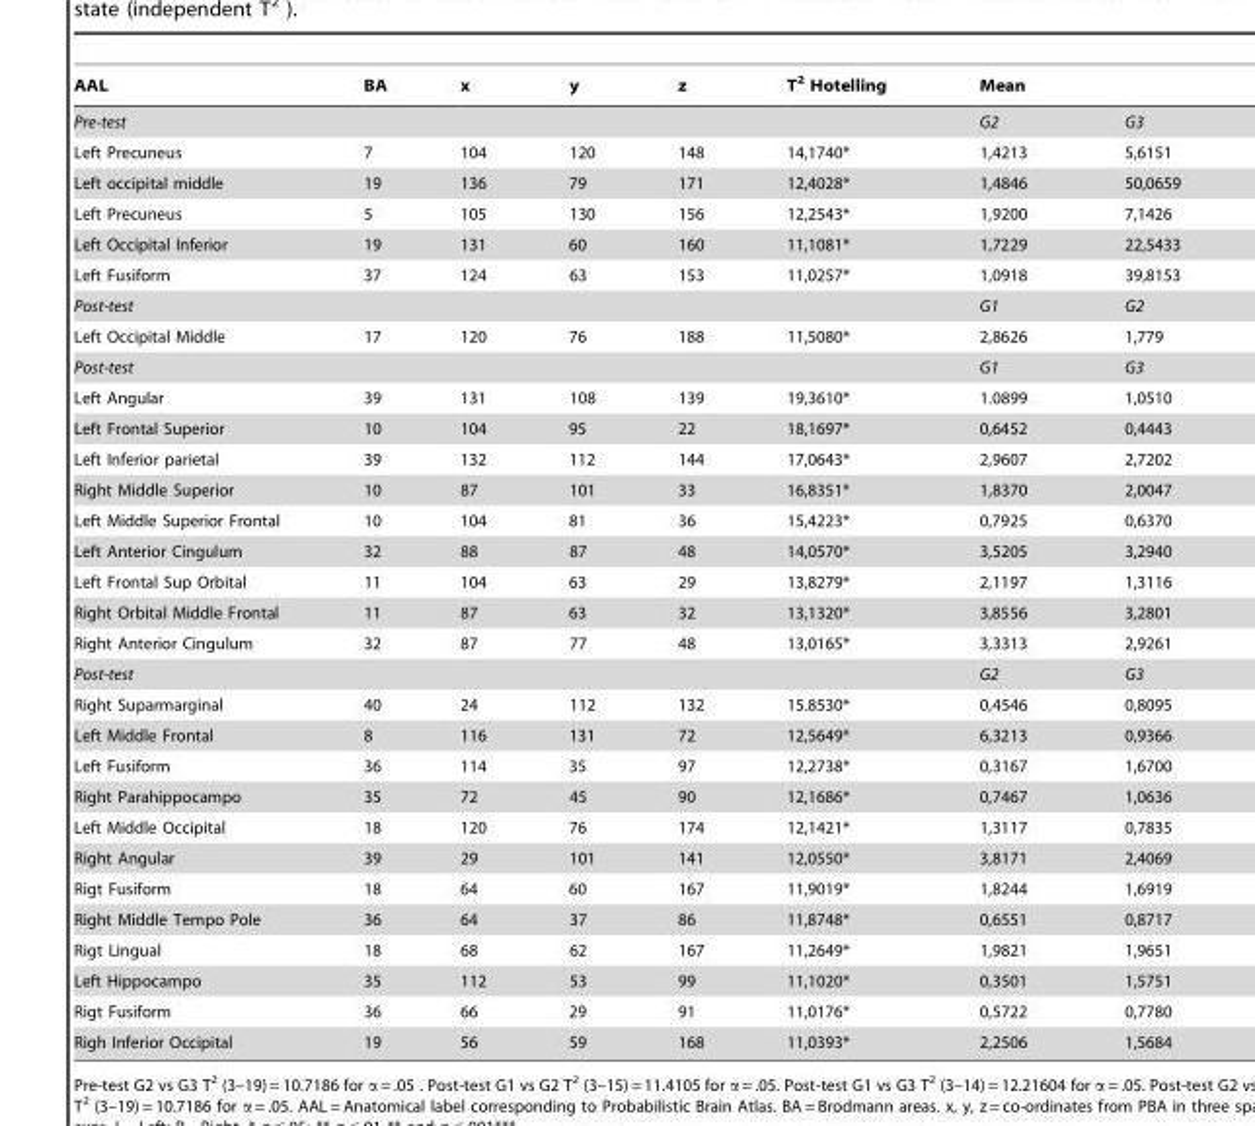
<table><thead><tr><td>AAL</td><td>BA</td><td>x</td><td>y</td><td>z</td><td>T<sup>2</sup> Hotelling</td><td>Mean</td><td></td></tr></thead><tbody><tr><td colspan="6">Pre-test</td><td>G2</td><td>G3</td></tr><tr><td>Left Precuneus</td><td>7</td><td>104</td><td>120</td><td>148</td><td>14,1740*</td><td>1,4213</td><td>5,6151</td></tr><tr><td>Left occipital middle</td><td>19</td><td>136</td><td>79</td><td>171</td><td>12,4028*</td><td>1,4846</td><td>50,0659</td></tr><tr><td>Left Precuneus</td><td>5</td><td>105</td><td>130</td><td>156</td><td>12,2543*</td><td>1,9200</td><td>7,1426</td></tr><tr><td>Left Occipital Inferior</td><td>19</td><td>131</td><td>60</td><td>160</td><td>11,1081*</td><td>1,7229</td><td>22,5433</td></tr><tr><td>Left Fusiform</td><td>37</td><td>124</td><td>63</td><td>153</td><td>11,0257*</td><td>1,0918</td><td>39,8153</td></tr><tr><td colspan="6">Post-test</td><td>G1</td><td>G2</td></tr><tr><td>Left Occipital Middle</td><td>17</td><td>120</td><td>76</td><td>188</td><td>11,5080*</td><td>2,8626</td><td>1,779</td></tr><tr><td colspan="6">Post-test</td><td>G1</td><td>G3</td></tr><tr><td>Left Angular</td><td>39</td><td>131</td><td>108</td><td>139</td><td>19,3610*</td><td>1.0899</td><td>1,0510</td></tr><tr><td>Left Frontal Superior</td><td>10</td><td>104</td><td>95</td><td>22</td><td>18,1697*</td><td>0,6452</td><td>0,4443</td></tr><tr><td>Left Inferior parietal</td><td>39</td><td>132</td><td>112</td><td>144</td><td>17,0643*</td><td>2,9607</td><td>2,7202</td></tr><tr><td>Right Middle Superior</td><td>10</td><td>87</td><td>101</td><td>33</td><td>16,8351*</td><td>1,8370</td><td>2,0047</td></tr><tr><td>Left Middle Superior Frontal</td><td>10</td><td>104</td><td>81</td><td>36</td><td>15,4223*</td><td>0,7925</td><td>0,6370</td></tr><tr><td>Left Anterior Cingulum</td><td>32</td><td>88</td><td>87</td><td>48</td><td>14,0570*</td><td>3,5205</td><td>3,2940</td></tr><tr><td>Left Frontal Sup Orbital</td><td>11</td><td>104</td><td>63</td><td>29</td><td>13,8279*</td><td>2,1197</td><td>1,3116</td></tr><tr><td>Right Orbital Middle Frontal</td><td>11</td><td>87</td><td>63</td><td>32</td><td>13,1320*</td><td>3,8556</td><td>3,2801</td></tr><tr><td>Right Anterior Cingulum</td><td>32</td><td>87</td><td>77</td><td>48</td><td>13,0165*</td><td>3,3313</td><td>2,9261</td></tr><tr><td colspan="6">Post-test</td><td>G2</td><td>G3</td></tr><tr><td>Right Suparmarginal</td><td>40</td><td>24</td><td>112</td><td>132</td><td>15.8530*</td><td>0,4546</td><td>0,8095</td></tr><tr><td>Left Middle Frontal</td><td>8</td><td>116</td><td>131</td><td>72</td><td>12,5649*</td><td>6,3213</td><td>0,9366</td></tr><tr><td>Left Fusiform</td><td>36</td><td>114</td><td>35</td><td>97</td><td>12,2738*</td><td>0,3167</td><td>1,6700</td></tr><tr><td>Right Parahippocampo</td><td>35</td><td>72</td><td>45</td><td>90</td><td>12,1686*</td><td>0,7467</td><td>1,0636</td></tr><tr><td>Left Middle Occipital</td><td>18</td><td>120</td><td>76</td><td>174</td><td>12,1421*</td><td>1,3117</td><td>0,7835</td></tr><tr><td>Right Angular</td><td>39</td><td>29</td><td>101</td><td>141</td><td>12,0550*</td><td>3,8171</td><td>2,4069</td></tr><tr><td>Rigt Fusiform</td><td>18</td><td>64</td><td>60</td><td>167</td><td>11,9019*</td><td>1,8244</td><td>1,6919</td></tr><tr><td>Right Middle Tempo Pole</td><td>36</td><td>64</td><td>37</td><td>86</td><td>11,8748*</td><td>0,6551</td><td>0,8717</td></tr><tr><td>Rigt Lingual</td><td>18</td><td>68</td><td>62</td><td>167</td><td>11,2649*</td><td>1,9821</td><td>1,9651</td></tr><tr><td>Left Hippocampo</td><td>35</td><td>112</td><td>53</td><td>99</td><td>11,1020*</td><td>0,3501</td><td>1,5751</td></tr><tr><td>Rigt Fusiform</td><td>36</td><td>66</td><td>29</td><td>91</td><td>11,0176*</td><td>0,5722</td><td>0,7780</td></tr><tr><td>Righ Inferior Occipital</td><td>19</td><td>56</td><td>59</td><td>168</td><td>11,0393*</td><td>2,2506</td><td>1,5684</td></tr></tbody></table>